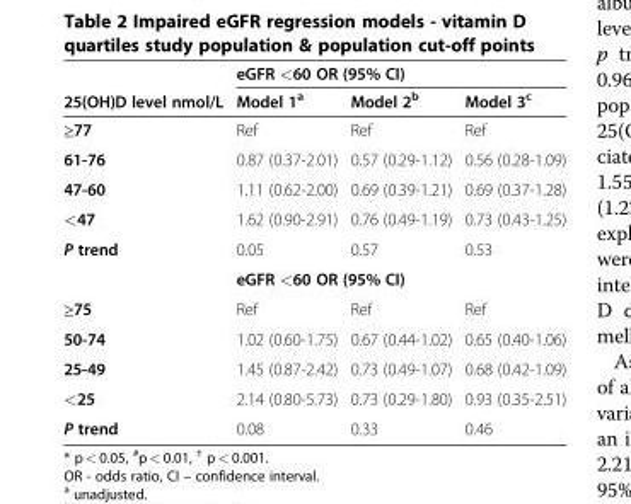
<table><thead><tr><td rowspan="2">25(OH)D level nmol/L</td><td colspan="3">eGFR &lt;60 OR (95% CI)</td></tr><tr><td>Model 1<sup>a</sup></td><td>Model 2<sup>b</sup></td><td>Model 3<sup>c</sup></td></tr></thead><tbody><tr><td>≥77</td><td>Ref</td><td>Ref</td><td>Ref</td></tr><tr><td>61-76</td><td>0.87 (0.37-2.01)</td><td>0.57 (0.29-1.12)</td><td>0.56 (0.28-1.09)</td></tr><tr><td>47-60</td><td>1.11 (0.62-2.00)</td><td>0.69 (0.39-1.21)</td><td>0.69 (0.37-1.28)</td></tr><tr><td>&lt;47</td><td>1.62 (0.90-2.91)</td><td>0.76 (0.49-1.19)</td><td>0.73 (0.43-1.25)</td></tr><tr><td rowspan="2">P trend</td><td>0.05</td><td>0.57</td><td>0.53</td></tr><tr><td colspan="3">eGFR &lt;60 OR (95% CI)</td></tr><tr><td>≥75</td><td>Ref</td><td>Ref</td><td>Ref</td></tr><tr><td>50-74</td><td>1.02 (0.60-1.75)</td><td>0.67 (0.44-1.02)</td><td>0.65 (0.40-1.06)</td></tr><tr><td>25-49</td><td>1.45 (0.87-2.42)</td><td>0.73 (0.49-1.07)</td><td>0.68 (0.42-1.09)</td></tr><tr><td>&lt;25</td><td>2.14 (0.80-5.73)</td><td>0.73 (0.29-1.80)</td><td>0.93 (0.35-2.51)</td></tr><tr><td>P trend</td><td>0.08</td><td>0.33</td><td>0.46</td></tr></tbody></table>